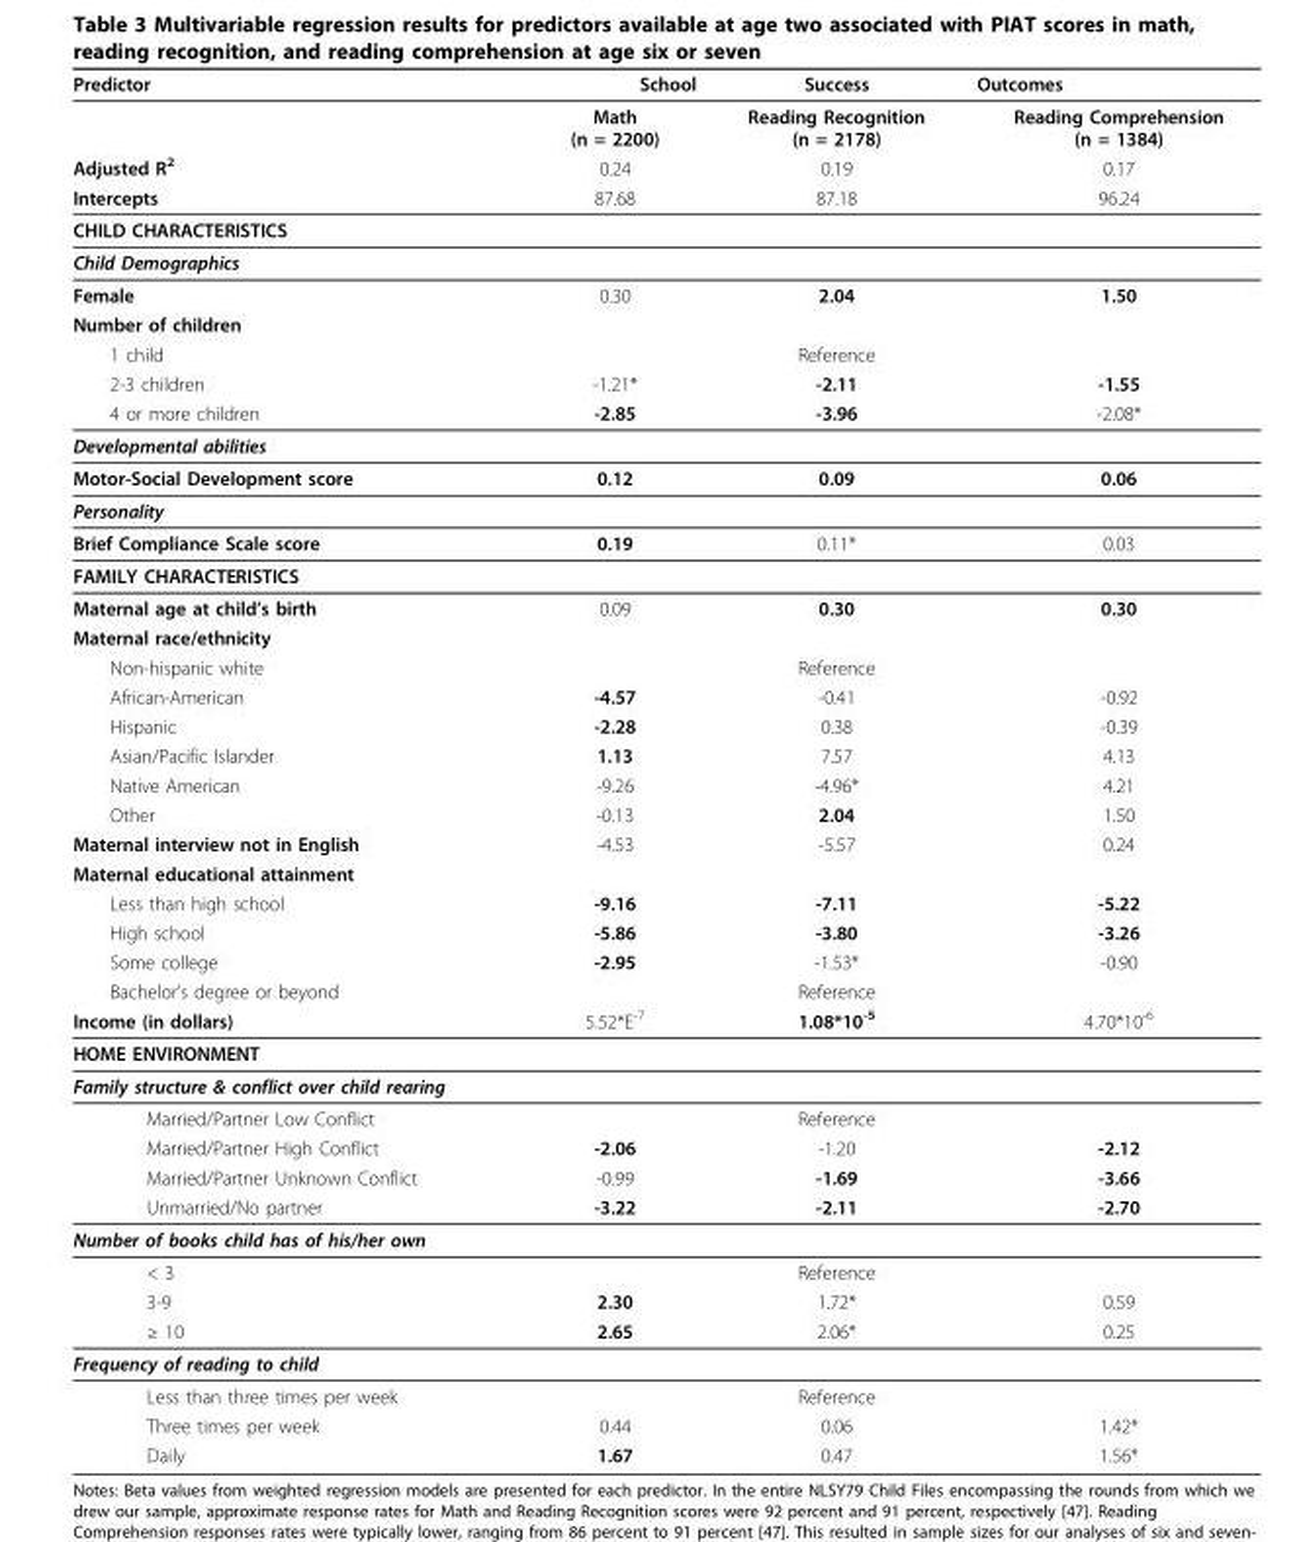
<table><thead><tr><td>Predictor</td><td>School</td><td>Success</td><td>Outcomes</td></tr></thead><tbody><tr><td></td><td>Math (n = 2200)</td><td>Reading Recognition (n = 2178)</td><td>Reading Comprehension (n = 1384)</td></tr><tr><td>Adjusted R<sup>2</sup></td><td>0.24</td><td>0.19</td><td>0.17</td></tr><tr><td>Intercepts</td><td>87.68</td><td>87.18</td><td>96.24</td></tr><tr><td colspan="4">CHILD CHARACTERISTICS</td></tr><tr><td colspan="4">Child Demographics</td></tr><tr><td>Female</td><td>0.30</td><td>2.04</td><td>1.50</td></tr><tr><td colspan="4">Number of children</td></tr><tr><td>1 child</td><td></td><td>Reference</td><td></td></tr><tr><td>2-3 children</td><td>-1.21*</td><td>-2.11</td><td>-1.55</td></tr><tr><td>4 or more children</td><td>-2.85</td><td>-3.96</td><td>-2.08*</td></tr><tr><td colspan="4">Developmental abilities</td></tr><tr><td>Motor-Social Development score</td><td>0.12</td><td>0.09</td><td>0.06</td></tr><tr><td colspan="4">Personality</td></tr><tr><td>Brief Compliance Scale score</td><td>0.19</td><td>0.11*</td><td>0.03</td></tr><tr><td colspan="4">FAMILY CHARACTERISTICS</td></tr><tr><td>Maternal age at child’s birth</td><td>0.09</td><td>0.30</td><td>0.30</td></tr><tr><td colspan="4">Maternal race/ethnicity</td></tr><tr><td>Non-hispanic white</td><td></td><td>Reference</td><td></td></tr><tr><td>African-American</td><td>-4.57</td><td>-0.41</td><td>-0.92</td></tr><tr><td>Hispanic</td><td>-2.28</td><td>0.38</td><td>-0.39</td></tr><tr><td>Asian/Pacific Islander</td><td>1.13</td><td>7.57</td><td>4.13</td></tr><tr><td>Native American</td><td>-9.26</td><td>-4.96*</td><td>4.21</td></tr><tr><td>Other</td><td>-0.13</td><td>2.04</td><td>1.50</td></tr><tr><td>Maternal interview not in English</td><td>-4.53</td><td>-5.57</td><td>0.24</td></tr><tr><td colspan="4">Maternal educational attainment</td></tr><tr><td>Less than high school</td><td>-9.16</td><td>-7.11</td><td>-5.22</td></tr><tr><td>High school</td><td>-5.86</td><td>-3.80</td><td>-3.26</td></tr><tr><td>Some college</td><td>-2.95</td><td>-1.53*</td><td>-0.90</td></tr><tr><td>Bachelor’s degree or beyond</td><td></td><td>Reference</td><td></td></tr><tr><td>Income (in dollars)</td><td>5.52*E<sup>-7</sup></td><td>1.08*10<sup>-5</sup></td><td>4.70*10<sup>-6</sup></td></tr><tr><td colspan="4">HOME ENVIRONMENT</td></tr><tr><td colspan="4">Family structure &amp; conflict over child rearing</td></tr><tr><td>Married/Partner Low Conflict</td><td></td><td>Reference</td><td></td></tr><tr><td>Married/Partner High Conflict</td><td>-2.06</td><td>-1.20</td><td>-2.12</td></tr><tr><td>Married/Partner Unknown Conflict</td><td>-0.99</td><td>-1.69</td><td>-3.66</td></tr><tr><td>Unmarried/No partner</td><td>-3.22</td><td>-2.11</td><td>-2.70</td></tr><tr><td colspan="4">Number of books child has of his/her own</td></tr><tr><td>&lt; 3</td><td></td><td>Reference</td><td></td></tr><tr><td>3-9</td><td>2.30</td><td>1.72*</td><td>0.59</td></tr><tr><td>≥ 10</td><td>2.65</td><td>2.06*</td><td>0.25</td></tr><tr><td colspan="4">Frequency of reading to child</td></tr><tr><td>Less than three times per week</td><td></td><td>Reference</td><td></td></tr><tr><td>Three times per week</td><td>0.44</td><td>0.06</td><td>1.42*</td></tr><tr><td>Daily</td><td>1.67</td><td>0.47</td><td>1.56*</td></tr></tbody></table>